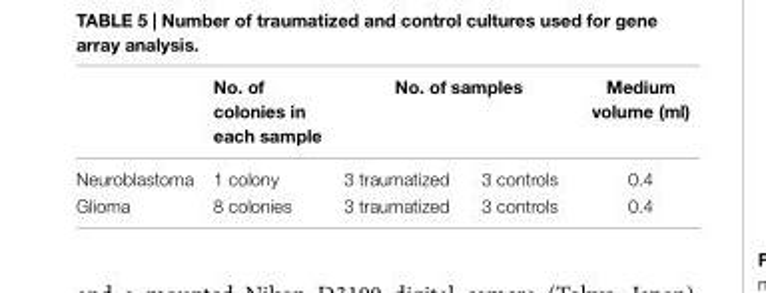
<table><thead><tr><td rowspan="2">Neuroblastoma</td><td rowspan="2">no. of colonies in each sample 1 colony</td><td colspan="2">no. of samples</td><td rowspan="2">Medium volume (ml) 0.4</td></tr><tr><td>3 traumatized</td><td>3 controls</td></tr></thead><tbody><tr><td>Glioma</td><td>8 colonies</td><td>3 traumatized</td><td>3 controls</td><td>0.4</td></tr></tbody></table>